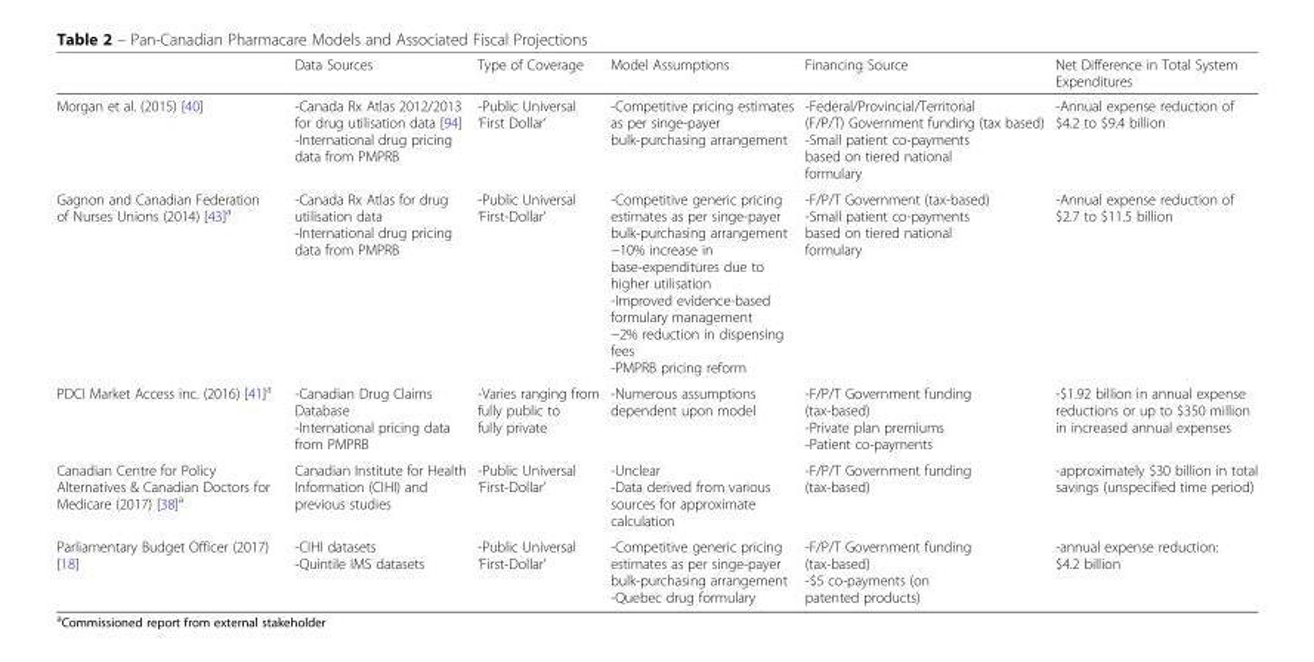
<table><thead><tr><td></td><td>Data Sources</td><td>Type of Coverage</td><td>Model Assumptions</td><td>Financing Source</td><td>Net Difference in Total System Expenditures</td></tr></thead><tbody><tr><td>Morgan et al. (2015) [40]</td><td>-Canada Rx Atlas 2012/2013 for drug utilisation data [94] -International drug pricing data from PMPRB</td><td>-Public Universal ‘First Dollar’</td><td>-Competitive pricing estimates as per singe-payer bulk-purchasing arrangement</td><td>-Federal/Provincial/Territorial (F/P/T) Government funding (tax based) -Small patient co-payments based on tiered national formulary</td><td>-Annual expense reduction of $4.2 to $9.4 billion</td></tr><tr><td>Gagnon and Canadian Federation of Nurses Unions (2014) [43]<sup>a</sup></td><td>-Canada Rx Atlas for drug utilisation data -International drug pricing data from PMPRB</td><td>-Public Universal ‘First-Dollar’</td><td>-Competitive generic pricing estimates as per singe-payer bulk-purchasing arrangement −10% increase in base-expenditures due to higher utilisation -Improved evidence-based formulary management −2% reduction in dispensing fees -PMPRB pricing reform</td><td>-F/P/T Government (tax-based) -Small patient co-payments based on tiered national formulary</td><td>-Annual expense reduction of $2.7 to $11.5 billion</td></tr><tr><td>PDCI Market Access inc. (2016) [41]<sup>a</sup></td><td>-Canadian Drug Claims Database -International pricing data from PMPRB</td><td>-Varies ranging from fully public to fully private</td><td>-Numerous assumptions dependent upon model</td><td>-F/P/T Government funding (tax-based) -Private plan premiums -Patient co-payments</td><td>-$1.92 billion in annual expense reductions or up to $350 million in increased annual expenses</td></tr><tr><td>Canadian Centre for Policy Alternatives &amp; Canadian Doctors for Medicare (2017) [38]<sup>a</sup></td><td>Canadian Institute for Health Information (CIHI) and previous studies</td><td>-Public Universal ‘First-Dollar’</td><td>-Unclear -Data derived from various sources for approximate calculation</td><td>-F/P/T Government funding (tax-based)</td><td>-approximately $30 billion in total savings (unspecified time period)</td></tr><tr><td>Parliamentary Budget Officer (2017) [18]</td><td>-CIHI datasets -Quintile IMS datasets</td><td>-Public Universal ‘First-Dollar’</td><td>-Competitive generic pricing estimates as per singe-payer bulk-purchasing arrangement -Quebec drug formulary</td><td>-F/P/T Government funding (tax-based) -$5 co-payments (on patented products)</td><td>-annual expense reduction: $4.2 billion</td></tr></tbody></table>